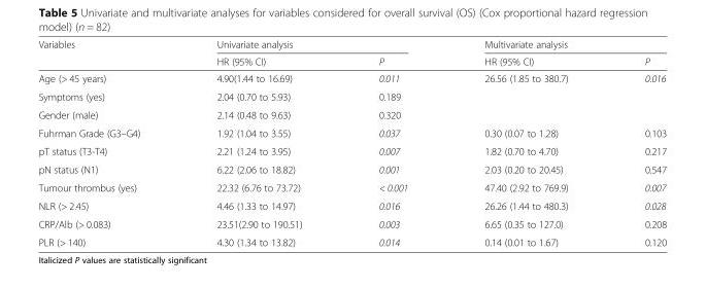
<table><thead><tr><td rowspan="2">Variables</td><td colspan="2">Univariate analysis</td><td colspan="2">Multivariate analysis</td></tr><tr><td>HR (95% CI)</td><td>P</td><td>HR (95% CI)</td><td>P</td></tr></thead><tbody><tr><td>Age (&gt; 45 years)</td><td>4.90(1.44 to 16.69)</td><td>0.011</td><td>26.56 (1.85 to 380.7)</td><td>0.016</td></tr><tr><td>Symptoms (yes)</td><td>2.04 (0.70 to 5.93)</td><td>0.189</td><td></td><td></td></tr><tr><td>Gender (male)</td><td>2.14 (0.48 to 9.63)</td><td>0.320</td><td></td><td></td></tr><tr><td>Fuhrman Grade (G3–G4)</td><td>1.92 (1.04 to 3.55)</td><td>0.037</td><td>0.30 (0.07 to 1.28)</td><td>0.103</td></tr><tr><td>pT status (T3-T4)</td><td>2.21 (1.24 to 3.95)</td><td>0.007</td><td>1.82 (0.70 to 4.70)</td><td>0.217</td></tr><tr><td>pN status (N1)</td><td>6.22 (2.06 to 18.82)</td><td>0.001</td><td>2.03 (0.20 to 20.45)</td><td>0.547</td></tr><tr><td>Tumour thrombus (yes)</td><td>22.32 (6.76 to 73.72)</td><td>&lt; 0.001</td><td>47.40 (2.92 to 769.9)</td><td>0.007</td></tr><tr><td>NLR (&gt; 2.45)</td><td>4.46 (1.33 to 14.97)</td><td>0.016</td><td>26.26 (1.44 to 480.3)</td><td>0.028</td></tr><tr><td>CRP/Alb (&gt; 0.083)</td><td>23.51(2.90 to 190.51)</td><td>0.003</td><td>6.65 (0.35 to 127.0)</td><td>0.208</td></tr><tr><td>PLR (&gt; 140)</td><td>4.30 (1.34 to 13.82)</td><td>0.014</td><td>0.14 (0.01 to 1.67)</td><td>0.120</td></tr></tbody></table>